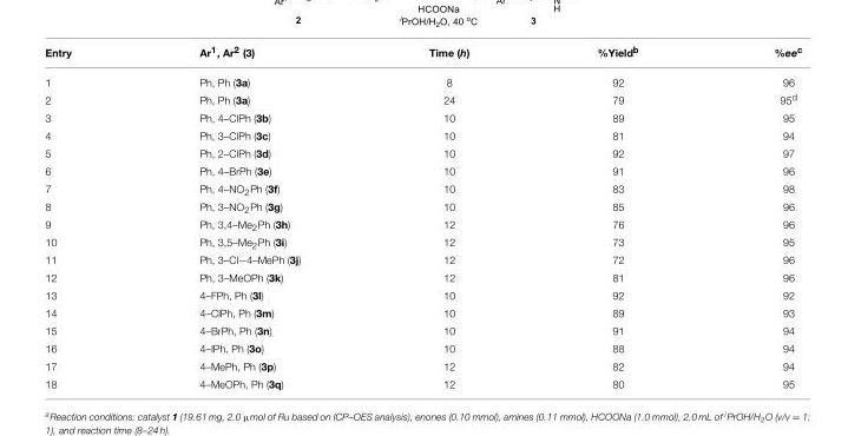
<table><thead><tr><td>Entry</td><td>Ar<sup>1</sup>, Ar<sup>2</sup> (3)</td><td>Time (h)</td><td>%Yield<sup>b</sup></td><td>%ee<sup>c</sup></td></tr></thead><tbody><tr><td>1</td><td>Ph, Ph (3a)</td><td>8</td><td>92</td><td>96</td></tr><tr><td>2</td><td>Ph, Ph (3a)</td><td>24</td><td>79</td><td>95<sup>d</sup></td></tr><tr><td>3</td><td>Ph, 4–ClPh (3b)</td><td>10</td><td>89</td><td>95</td></tr><tr><td>4</td><td>Ph, 3–ClPh (3c)</td><td>10</td><td>81</td><td>94</td></tr><tr><td>5</td><td>Ph, 2–ClPh (3d)</td><td>10</td><td>92</td><td>97</td></tr><tr><td>6</td><td>Ph, 4–BrPh (3e)</td><td>10</td><td>91</td><td>96</td></tr><tr><td>7</td><td>Ph, 4–NO<sub>2</sub>Ph (3f)</td><td>10</td><td>83</td><td>98</td></tr><tr><td>8</td><td>Ph, 3–NO<sub>2</sub>Ph (3g)</td><td>10</td><td>85</td><td>96</td></tr><tr><td>9</td><td>Ph, 3,4–Me<sub>2</sub>Ph (3h)</td><td>12</td><td>76</td><td>96</td></tr><tr><td>10</td><td>Ph, 3,5–Me<sub>2</sub>Ph (3i)</td><td>12</td><td>73</td><td>95</td></tr><tr><td>11</td><td>Ph, 3–Cl−4–MePh (3j)</td><td>12</td><td>72</td><td>96</td></tr><tr><td>12</td><td>Ph, 3–MeOPh (3k)</td><td>12</td><td>81</td><td>96</td></tr><tr><td>13</td><td>4–FPh, Ph (3l)</td><td>10</td><td>92</td><td>92</td></tr><tr><td>14</td><td>4–ClPh, Ph (3m)</td><td>10</td><td>89</td><td>93</td></tr><tr><td>15</td><td>4–BrPh, Ph (3n)</td><td>10</td><td>91</td><td>94</td></tr><tr><td>16</td><td>4–IPh, Ph (3o)</td><td>10</td><td>88</td><td>94</td></tr><tr><td>17</td><td>4–MePh, Ph (3p)</td><td>12</td><td>82</td><td>94</td></tr><tr><td>18</td><td>4–MeOPh, Ph (3q)</td><td>12</td><td>80</td><td>95</td></tr></tbody></table>